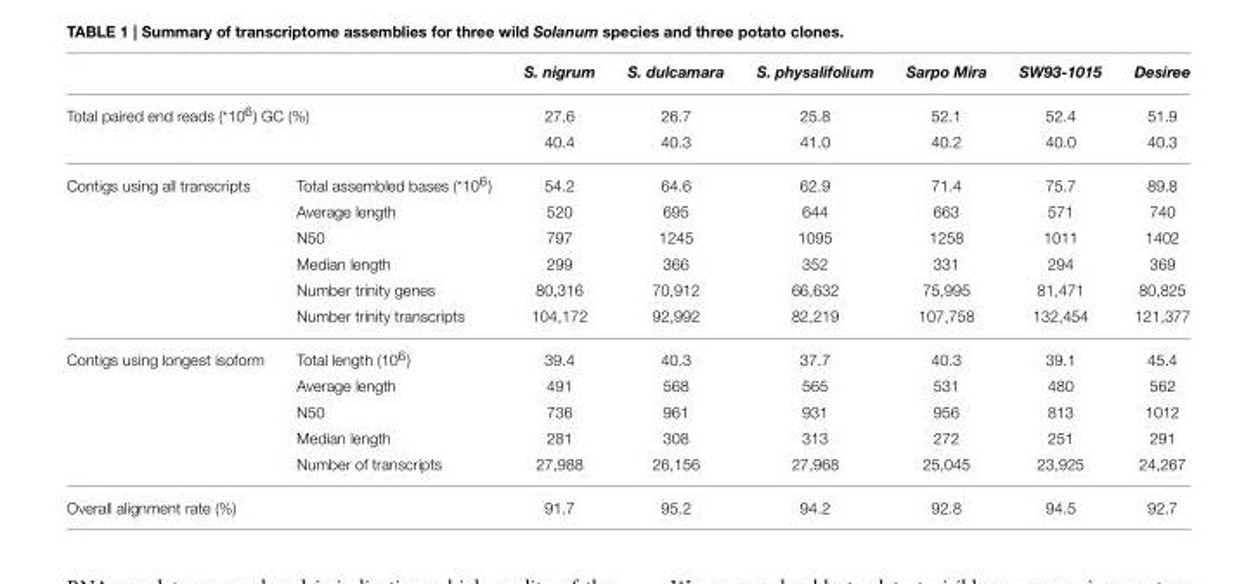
<table><thead><tr><td></td><td></td><td>S. nigrum</td><td>S. dulcamara</td><td>S. physalifolium</td><td>Sarpo Mira</td><td>SW93-1015</td><td>Desiree</td></tr></thead><tbody><tr><td rowspan="2" colspan="2">Total paired end reads (*10<sup>6</sup>) GC (%)</td><td>27.6</td><td>26.7</td><td>25.8</td><td>52.1</td><td>52.4</td><td>51.9</td></tr><tr><td>40.4</td><td>40.3</td><td>41.0</td><td>40.2</td><td>40.0</td><td>40.3</td></tr><tr><td rowspan="6">Contigs using all transcripts</td><td>Total assembled bases (*10<sup>6</sup>)</td><td>54.2</td><td>64.6</td><td>62.9</td><td>71.4</td><td>75.7</td><td>89.8</td></tr><tr><td>Average length</td><td>520</td><td>695</td><td>644</td><td>663</td><td>571</td><td>740</td></tr><tr><td>N50</td><td>797</td><td>1245</td><td>1095</td><td>1258</td><td>1011</td><td>1402</td></tr><tr><td>Median length</td><td>299</td><td>366</td><td>352</td><td>331</td><td>294</td><td>369</td></tr><tr><td>Number trinity genes</td><td>80,316</td><td>70,912</td><td>66,632</td><td>75,995</td><td>81,471</td><td>80,825</td></tr><tr><td>Number trinity transcripts</td><td>104,172</td><td>92,992</td><td>82,219</td><td>107,758</td><td>132,454</td><td>121,377</td></tr><tr><td rowspan="5">Contigs using longest isoform</td><td>Total length (10<sup>6</sup>)</td><td>39.4</td><td>40.3</td><td>37.7</td><td>40.3</td><td>39.1</td><td>45.4</td></tr><tr><td>Average length</td><td>491</td><td>568</td><td>565</td><td>531</td><td>480</td><td>562</td></tr><tr><td>N50</td><td>736</td><td>961</td><td>931</td><td>956</td><td>813</td><td>1012</td></tr><tr><td>Median length</td><td>281</td><td>308</td><td>313</td><td>272</td><td>251</td><td>291</td></tr><tr><td>Number of transcripts</td><td>27,988</td><td>26,156</td><td>27,968</td><td>25,045</td><td>23,925</td><td>24,267</td></tr><tr><td colspan="2">Overall alignment rate (%)</td><td>91.7</td><td>95.2</td><td>94.2</td><td>92.8</td><td>94.5</td><td>92.7</td></tr></tbody></table>